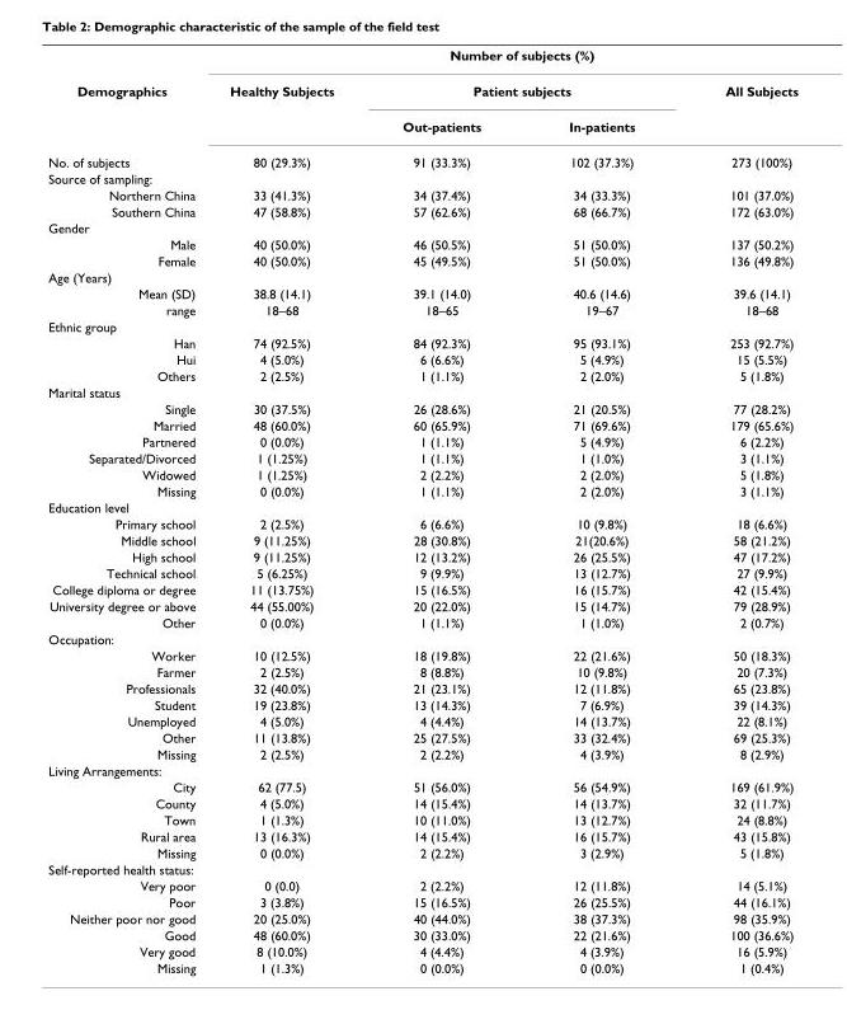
<table><thead><tr><td rowspan="3">Demographics</td><td colspan="4">Number of subjects (%)</td></tr><tr><td rowspan="2">Healthy Subjects</td><td colspan="2">Patient subjects</td><td rowspan="2">All Subjects</td></tr><tr><td>Out-patients</td><td>In-patients</td></tr></thead><tbody><tr><td>No. of subjects</td><td>80 (29.3%)</td><td>91 (33.3%)</td><td>102 (37.3%)</td><td>273 (100%)</td></tr><tr><td colspan="5">Source of sampling:</td></tr><tr><td>Northern China</td><td>33 (41.3%)</td><td>34 (37.4%)</td><td>34 (33.3%)</td><td>101 (37.0%)</td></tr><tr><td>Southern China</td><td>47 (58.8%)</td><td>57 (62.6%)</td><td>68 (66.7%)</td><td>172 (63.0%)</td></tr><tr><td colspan="5">Gender</td></tr><tr><td>Male</td><td>40 (50.0%)</td><td>46 (50.5%)</td><td>51 (50.0%)</td><td>137 (50.2%)</td></tr><tr><td>Female</td><td>40 (50.0%)</td><td>45 (49.5%)</td><td>51 (50.0%)</td><td>136 (49.8%)</td></tr><tr><td colspan="5">Age (Years)</td></tr><tr><td>Mean (SD)</td><td>38.8 (14.1)</td><td>39.1 (14.0)</td><td>40.6 (14.6)</td><td>39.6 (14.1)</td></tr><tr><td>range</td><td>18–68</td><td>18–65</td><td>19–67</td><td>18–68</td></tr><tr><td colspan="5">Ethnic group</td></tr><tr><td>Han</td><td>74 (92.5%)</td><td>84 (92.3%)</td><td>95 (93.1%)</td><td>253 (92.7%)</td></tr><tr><td>Hui</td><td>4 (5.0%)</td><td>6 (6.6%)</td><td>5 (4.9%)</td><td>15 (5.5%)</td></tr><tr><td>Others</td><td>2 (2.5%)</td><td>1 (1.1%)</td><td>2 (2.0%)</td><td>5 (1.8%)</td></tr><tr><td colspan="5">Marital status</td></tr><tr><td>Single</td><td>30 (37.5%)</td><td>26 (28.6%)</td><td>21 (20.5%)</td><td>77 (28.2%)</td></tr><tr><td>Married</td><td>48 (60.0%)</td><td>60 (65.9%)</td><td>71 (69.6%)</td><td>179 (65.6%)</td></tr><tr><td>Partnered</td><td>0 (0.0%)</td><td>1 (1.1%)</td><td>5 (4.9%)</td><td>6 (2.2%)</td></tr><tr><td>Separated/Divorced</td><td>1 (1.25%)</td><td>1 (1.1%)</td><td>1 (1.0%)</td><td>3 (1.1%)</td></tr><tr><td>Widowed</td><td>1 (1.25%)</td><td>2 (2.2%)</td><td>2 (2.0%)</td><td>5 (1.8%)</td></tr><tr><td>Missing</td><td>0 (0.0%)</td><td>1 (1.1%)</td><td>2 (2.0%)</td><td>3 (1.1%)</td></tr><tr><td colspan="5">Education level</td></tr><tr><td>Primary school</td><td>2 (2.5%)</td><td>6 (6.6%)</td><td>10 (9.8%)</td><td>18 (6.6%)</td></tr><tr><td>Middle school</td><td>9 (11.25%)</td><td>28 (30.8%)</td><td>21(20.6%)</td><td>58 (21.2%)</td></tr><tr><td>High school</td><td>9 (11.25%)</td><td>12 (13.2%)</td><td>26 (25.5%)</td><td>47 (17.2%)</td></tr><tr><td>Technical school</td><td>5 (6.25%)</td><td>9 (9.9%)</td><td>13 (12.7%)</td><td>27 (9.9%)</td></tr><tr><td>College diploma or degree</td><td>11 (13.75%)</td><td>15 (16.5%)</td><td>16 (15.7%)</td><td>42 (15.4%)</td></tr><tr><td>University degree or above</td><td>44 (55.00%)</td><td>20 (22.0%)</td><td>15 (14.7%)</td><td>79 (28.9%)</td></tr><tr><td>Other</td><td>0 (0.0%)</td><td>1 (1.1%)</td><td>1 (1.0%)</td><td>2 (0.7%)</td></tr><tr><td colspan="5">Occupation:</td></tr><tr><td>Worker</td><td>10 (12.5%)</td><td>18 (19.8%)</td><td>22 (21.6%)</td><td>50 (18.3%)</td></tr><tr><td>Farmer</td><td>2 (2.5%)</td><td>8 (8.8%)</td><td>10 (9.8%)</td><td>20 (7.3%)</td></tr><tr><td>Professionals</td><td>32 (40.0%)</td><td>21 (23.1%)</td><td>12 (11.8%)</td><td>65 (23.8%)</td></tr><tr><td>Student</td><td>19 (23.8%)</td><td>13 (14.3%)</td><td>7 (6.9%)</td><td>39 (14.3%)</td></tr><tr><td>Unemployed</td><td>4 (5.0%)</td><td>4 (4.4%)</td><td>14 (13.7%)</td><td>22 (8.1%)</td></tr><tr><td>Other</td><td>11 (13.8%)</td><td>25 (27.5%)</td><td>33 (32.4%)</td><td>69 (25.3%)</td></tr><tr><td>Missing</td><td>2 (2.5%)</td><td>2 (2.2%)</td><td>4 (3.9%)</td><td>8 (2.9%)</td></tr><tr><td colspan="5">Living Arrangements:</td></tr><tr><td>City</td><td>62 (77.5)</td><td>51 (56.0%)</td><td>56 (54.9%)</td><td>169 (61.9%)</td></tr><tr><td>County</td><td>4 (5.0%)</td><td>14 (15.4%)</td><td>14 (13.7%)</td><td>32 (11.7%)</td></tr><tr><td>Town</td><td>1 (1.3%)</td><td>10 (11.0%)</td><td>13 (12.7%)</td><td>24 (8.8%)</td></tr><tr><td>Rural area</td><td>13 (16.3%)</td><td>14 (15.4%)</td><td>16 (15.7%)</td><td>43 (15.8%)</td></tr><tr><td>Missing</td><td>0 (0.0%)</td><td>2 (2.2%)</td><td>3 (2.9%)</td><td>5 (1.8%)</td></tr><tr><td colspan="5">Self-reported health status:</td></tr><tr><td>Very poor</td><td>0 (0.0)</td><td>2 (2.2%)</td><td>12 (11.8%)</td><td>14 (5.1%)</td></tr><tr><td>Poor</td><td>3 (3.8%)</td><td>15 (16.5%)</td><td>26 (25.5%)</td><td>44 (16.1%)</td></tr><tr><td>Neither poor nor good</td><td>20 (25.0%)</td><td>40 (44.0%)</td><td>38 (37.3%)</td><td>98 (35.9%)</td></tr><tr><td>Good</td><td>48 (60.0%)</td><td>30 (33.0%)</td><td>22 (21.6%)</td><td>100 (36.6%)</td></tr><tr><td>Very good</td><td>8 (10.0%)</td><td>4 (4.4%)</td><td>4 (3.9%)</td><td>16 (5.9%)</td></tr><tr><td>Missing</td><td>1 (1.3%)</td><td>0 (0.0%)</td><td>0 (0.0%)</td><td>1 (0.4%)</td></tr></tbody></table>